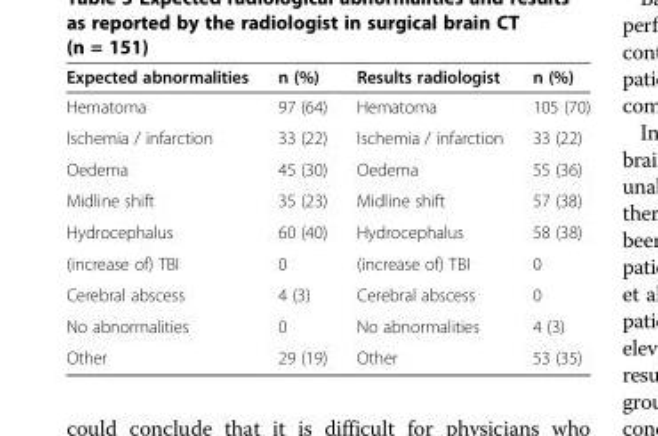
<table><thead><tr><td>Expected abnormalities</td><td>n (%)</td><td>Results radiologist</td><td>n (%)</td></tr></thead><tbody><tr><td>Hematoma</td><td>97 (64)</td><td>Hematoma</td><td>105 (70)</td></tr><tr><td>Ischemia / infarction</td><td>33 (22)</td><td>Ischemia / infarction</td><td>33 (22)</td></tr><tr><td>Oedema</td><td>45 (30)</td><td>Oedema</td><td>55 (36)</td></tr><tr><td>Midline shift</td><td>35 (23)</td><td>Midline shift</td><td>57 (38)</td></tr><tr><td>Hydrocephalus</td><td>60 (40)</td><td>Hydrocephalus</td><td>58 (38)</td></tr><tr><td>(increase of) TBI</td><td>0</td><td>(increase of) TBI</td><td>0</td></tr><tr><td>Cerebral abscess</td><td>4 (3)</td><td>Cerebral abscess</td><td>0</td></tr><tr><td>No abnormalities</td><td>0</td><td>No abnormalities</td><td>4 (3)</td></tr><tr><td>Other</td><td>29 (19)</td><td>Other</td><td>53 (35)</td></tr></tbody></table>